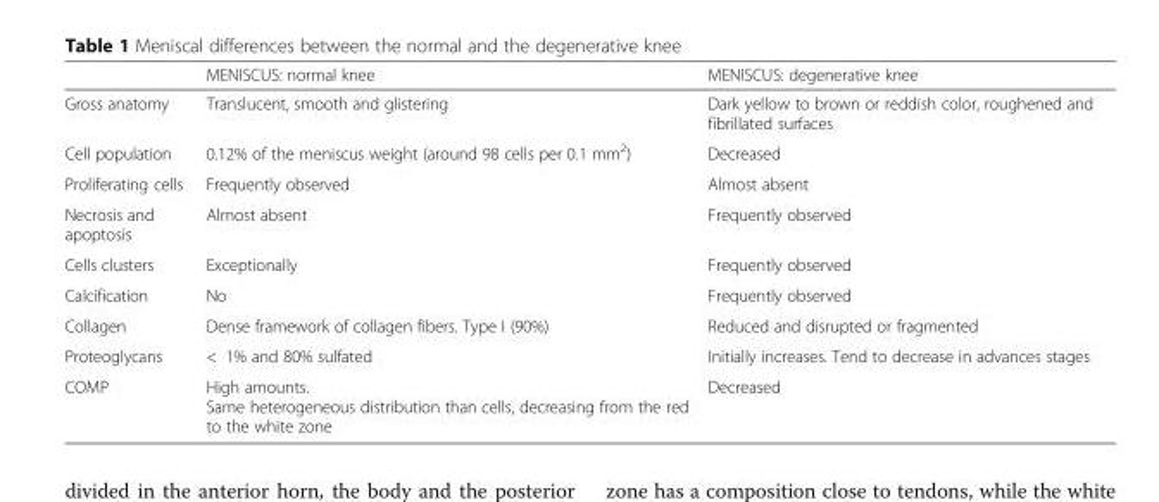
<table><thead><tr><td></td><td>MENISCUS: normal knee</td><td>MENISCUS: degenerative knee</td></tr></thead><tbody><tr><td>Gross anatomy</td><td>Translucent, smooth and glistering</td><td>Dark yellow to brown or reddish color, roughened and fibrillated surfaces</td></tr><tr><td>Cell population</td><td>0.12% of the meniscus weight (around 98 cells per 0.1 mm<sup>2</sup>)</td><td>Decreased</td></tr><tr><td>Proliferating cells</td><td>Frequently observed</td><td>Almost absent</td></tr><tr><td>Necrosis and apoptosis</td><td>Almost absent</td><td>Frequently observed</td></tr><tr><td>Cells clusters</td><td>Exceptionally</td><td>Frequently observed</td></tr><tr><td>Calcification</td><td>No</td><td>Frequently observed</td></tr><tr><td>Collagen</td><td>Dense framework of collagen fibers. Type I (90%)</td><td>Reduced and disrupted or fragmented</td></tr><tr><td>Proteoglycans</td><td>&lt; 1% and 80% sulfated</td><td>Initially increases. Tend to decrease in advances stages</td></tr><tr><td>COMP</td><td>High amounts. Same heterogeneous distribution than cells, decreasing from the red to the white zone</td><td>Decreased</td></tr></tbody></table>